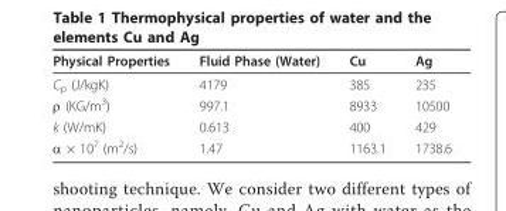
<table><thead><tr><td>Physical Properties</td><td>Fluid Phase (Water)</td><td>Cu</td><td>Ag</td></tr></thead><tbody><tr><td>C<sub>p</sub> (J/kgK)</td><td>4179</td><td>385</td><td>235</td></tr><tr><td>ρ (KG/m<sup>3</sup>)</td><td>997.1</td><td>8933</td><td>10500</td></tr><tr><td>k (W/mK)</td><td>0.613</td><td>400</td><td>429</td></tr><tr><td>α × 10<sup>7</sup> (m<sup>2</sup>/s)</td><td>1.47</td><td>1163.1</td><td>1738.6</td></tr></tbody></table>